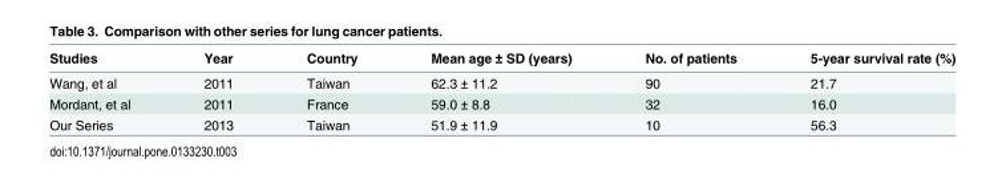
<table><thead><tr><td>Studies</td><td>Year</td><td>Country</td><td>Mean age ± SD (years)</td><td>No. of patients</td><td>5-year survival rate (%)</td></tr></thead><tbody><tr><td>Wang, et al</td><td>2011</td><td>Taiwan</td><td>62.3 ± 11.2</td><td>90</td><td>21.7</td></tr><tr><td>Mordant, et al</td><td>2011</td><td>France</td><td>59.0 ± 8.8</td><td>32</td><td>16.0</td></tr><tr><td>Our Series</td><td>2013</td><td>Taiwan</td><td>51.9 ± 11.9</td><td>10</td><td>56.3</td></tr></tbody></table>